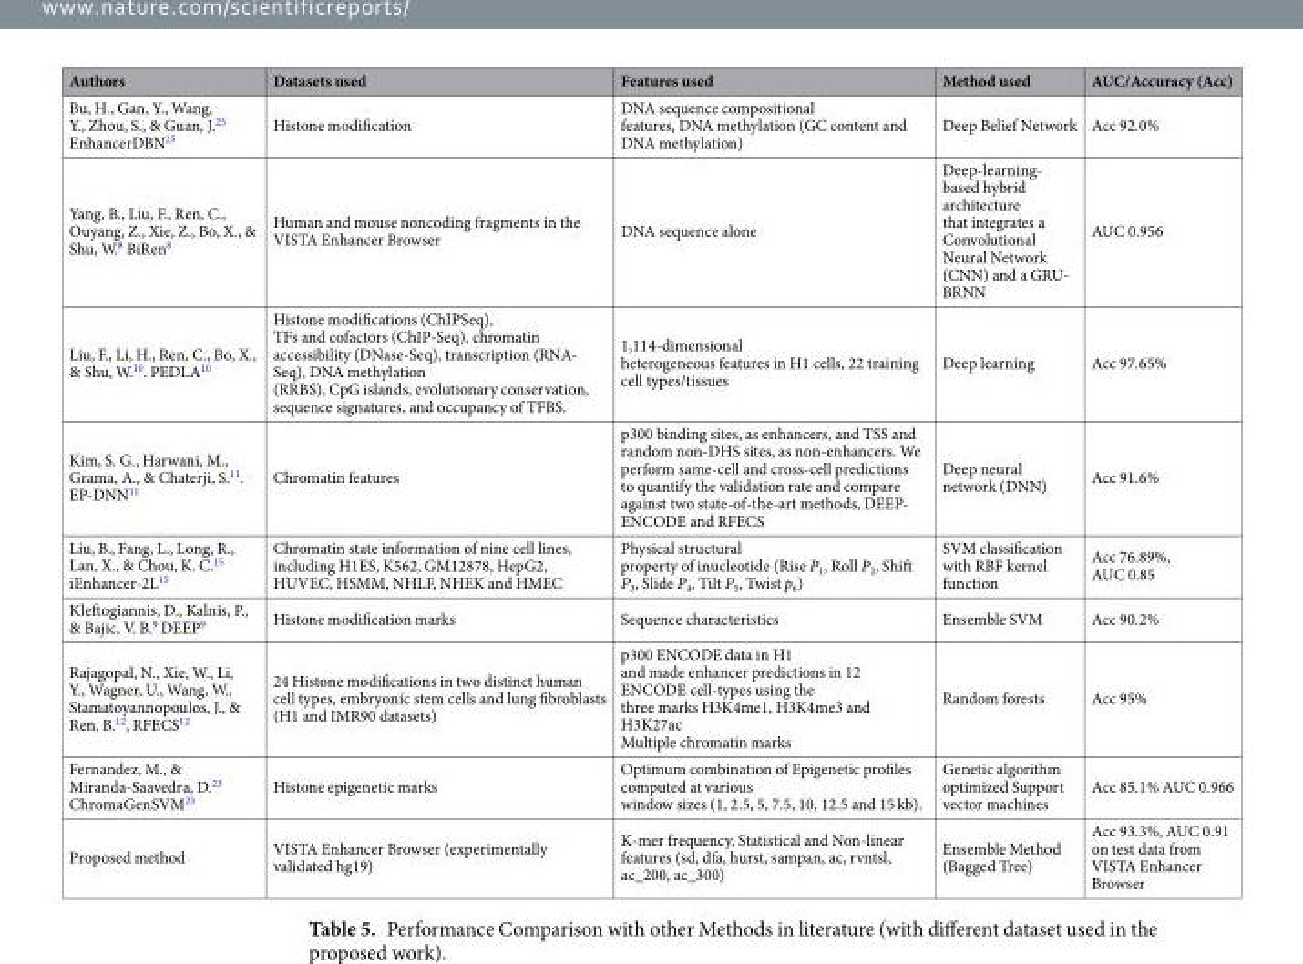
<table><thead><tr><td>Authors</td><td>Datasets used</td><td>Features used</td><td>Method used</td><td>AUC/Accuracy (Acc)</td></tr></thead><tbody><tr><td>Bu, H., Gan, Y., Wang, Y., Zhou, S., &amp; Guan, J.<sup>25</sup> EnhancerDBN<sup>25</sup></td><td>Histone modification</td><td>DNA sequence compositional features, DNA methylation (GC content and DNA methylation)</td><td>Deep Belief Network</td><td>Acc 92.0%</td></tr><tr><td>Yang, B., Liu, F., Ren, C., Ouyang, Z., Xie, Z., Bo, X., &amp; Shu, W.<sup>8</sup> BiRen<sup>8</sup></td><td>Human and mouse noncoding fragments in the VISTA Enhancer Browser</td><td>DNA sequence alone</td><td>Deep-learning- based hybrid architecture that integrates a Convolutional Neural Network (CNN) and a GRU- BRNN</td><td>AUC 0.956</td></tr><tr><td>Liu, F., Li, H., Ren, C., Bo, X., &amp; Shu, W.<sup>10</sup>. PEDLA<sup>10</sup></td><td>Histone modifications (ChIPSeq), TFs and cofactors (ChIP-Seq), chromatin accessibility (DNase-Seq), transcription (RNA- Seq), DNA methylation (RRBS), CpG islands, evolutionary conservation, sequence signatures, and occupancy of TFBS.</td><td>1,114-dimensional heterogeneous features in H1 cells, 22 training cell types/tissues</td><td>Deep learning</td><td>Acc 97.65%</td></tr><tr><td>Kim, S. G., Harwani, M., Grama, A., &amp; Chaterji, S.<sup>11</sup>. EP-DNN<sup>11</sup></td><td>Chromatin features</td><td>p300 binding sites, as enhancers, and TSS and random non-DHS sites, as non-enhancers. We perform same-cell and cross-cell predictions to quantify the validation rate and compare against two state-of-the-art methods, DEEP- ENCODE and RFECS</td><td>Deep neural network (DNN)</td><td>Acc 91.6%</td></tr><tr><td>Liu, B., Fang, L., Long, R., Lan, X., &amp; Chou, K. C.<sup>15</sup> iEnhancer-2L<sup>15</sup></td><td>Chromatin state information of nine cell lines, including H1ES, K562, GM12878, HepG2, HUVEC, HSMM, NHLF, NHEK and HMEC</td><td>Physical structural property of inucleotide (Rise P<sub>1</sub>, Roll P<sub>2</sub>, Shift P<sub>3</sub>, Slide P<sub>4</sub>, Tilt P<sub>5</sub>, Twist p<sub>6</sub>)</td><td>SVM classification with RBF kernel function</td><td>Acc 76.89%, AUC 0.85</td></tr><tr><td>Kleftogiannis, D., Kalnis, P., &amp; Bajic, V. B.<sup>9</sup> DEEP<sup>9</sup></td><td>Histone modification marks</td><td>Sequence characteristics</td><td>Ensemble SVM</td><td>Acc 90.2%</td></tr><tr><td>Rajagopal, N., Xie, W., Li, Y., Wagner, U., Wang, W., Stamatoyannopoulos, J., &amp; Ren, B.<sup>12</sup>, RFECS<sup>12</sup></td><td>24 Histone modifications in two distinct human cell types, embryonic stem cells and lung fibroblasts (H1 and IMR90 datasets)</td><td>p300 ENCODE data in H1 and made enhancer predictions in 12 ENCODE cell-types using the three marks H3K4me1, H3K4me3 and H3K27ac Multiple chromatin marks</td><td>Random forests</td><td>Acc 95%</td></tr><tr><td>Fernandez, M., &amp; Miranda-Saavedra, D.<sup>23</sup> ChromaGenSVM<sup>23</sup></td><td>Histone epigenetic marks</td><td>Optimum combination of Epigenetic profiles computed at various window sizes (1, 2.5, 5, 7.5, 10, 12.5 and 15 kb).</td><td>Genetic algorithm optimized Support vector machines</td><td>Acc 85.1% AUC 0.966</td></tr><tr><td>Proposed method</td><td>VISTA Enhancer Browser (experimentally validated hg19)</td><td>K-mer frequency, Statistical and Non-linear features (sd, dfa, hurst, sampan, ac, rvntsl, ac_200, ac_300)</td><td>Ensemble Method (Bagged Tree)</td><td>Acc 93.3%, AUC 0.91 on test data from VISTA Enhancer Browser</td></tr></tbody></table>